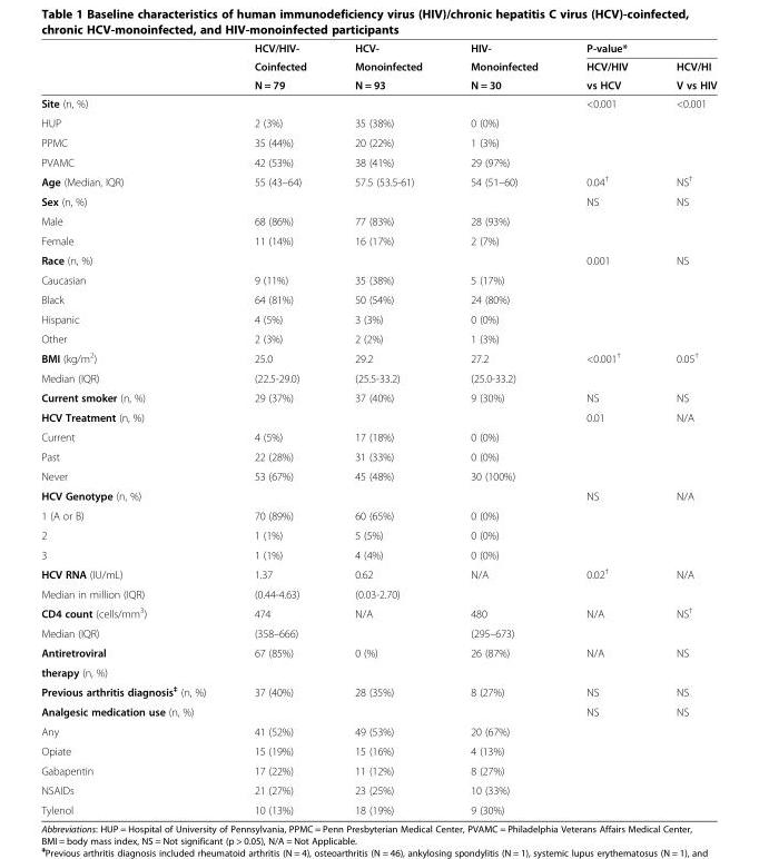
<table><thead><tr><td rowspan="3"></td><td rowspan="3">HCV/HIV- Coinfected N = 79</td><td rowspan="3">HCV- Monoinfected N = 93</td><td rowspan="3">HIV- Monoinfected N = 30</td><td colspan="2">P-value*</td></tr><tr><td rowspan="2">HCV/HIV vs HCV</td><td rowspan="2">HCV/HI V vs HIV</td></tr><tr></tr></thead><tbody><tr><td>Site (n, %)</td><td></td><td></td><td></td><td>&lt;0.001</td><td>&lt;0.001</td></tr><tr><td>HUP</td><td>2 (3%)</td><td>35 (38%)</td><td>0 (0%)</td><td></td><td></td></tr><tr><td>PPMC</td><td>35 (44%)</td><td>20 (22%)</td><td>1 (3%)</td><td></td><td></td></tr><tr><td>PVAMC</td><td>42 (53%)</td><td>38 (41%)</td><td>29 (97%)</td><td></td><td></td></tr><tr><td>Age (Median, IQR)</td><td>55 (43–64)</td><td>57.5 (53.5-61)</td><td>54 (51–60)</td><td>0.04<sup>†</sup></td><td>NS<sup>†</sup></td></tr><tr><td>Sex (n, %)</td><td></td><td></td><td></td><td>NS</td><td>NS</td></tr><tr><td>Male</td><td>68 (86%)</td><td>77 (83%)</td><td>28 (93%)</td><td></td><td></td></tr><tr><td>Female</td><td>11 (14%)</td><td>16 (17%)</td><td>2 (7%)</td><td></td><td></td></tr><tr><td>Race (n, %)</td><td></td><td></td><td></td><td>0.001</td><td>NS</td></tr><tr><td>Caucasian</td><td>9 (11%)</td><td>35 (38%)</td><td>5 (17%)</td><td></td><td></td></tr><tr><td>Black</td><td>64 (81%)</td><td>50 (54%)</td><td>24 (80%)</td><td></td><td></td></tr><tr><td>Hispanic</td><td>4 (5%)</td><td>3 (3%)</td><td>0 (0%)</td><td></td><td></td></tr><tr><td>Other</td><td>2 (3%)</td><td>2 (2%)</td><td>1 (3%)</td><td></td><td></td></tr><tr><td>BMI (kg/m<sup>2</sup>)</td><td>25.0</td><td>29.2</td><td>27.2</td><td>&lt;0.001<sup>†</sup></td><td>0.05<sup>†</sup></td></tr><tr><td>Median (IQR)</td><td>(22.5-29.0)</td><td>(25.5-33.2)</td><td>(25.0-33.2)</td><td></td><td></td></tr><tr><td>Current smoker (n, %)</td><td>29 (37%)</td><td>37 (40%)</td><td>9 (30%)</td><td>NS</td><td>NS</td></tr><tr><td>HCV Treatment (n, %)</td><td></td><td></td><td></td><td>0.01</td><td>N/A</td></tr><tr><td>Current</td><td>4 (5%)</td><td>17 (18%)</td><td>0 (0%)</td><td></td><td></td></tr><tr><td>Past</td><td>22 (28%)</td><td>31 (33%)</td><td>0 (0%)</td><td></td><td></td></tr><tr><td>Never</td><td>53 (67%)</td><td>45 (48%)</td><td>30 (100%)</td><td></td><td></td></tr><tr><td>HCV Genotype (n, %)</td><td></td><td></td><td></td><td>NS</td><td>N/A</td></tr><tr><td>1 (A or B)</td><td>70 (89%)</td><td>60 (65%)</td><td>0 (0%)</td><td></td><td></td></tr><tr><td>2</td><td>1 (1%)</td><td>5 (5%)</td><td>0 (0%)</td><td></td><td></td></tr><tr><td>3</td><td>1 (1%)</td><td>4 (4%)</td><td>0 (0%)</td><td></td><td></td></tr><tr><td>HCV RNA (IU/mL)</td><td>1.37</td><td>0.62</td><td>N/A</td><td>0.02<sup>†</sup></td><td>N/A</td></tr><tr><td>Median in million (IQR)</td><td>(0.44-4.63)</td><td>(0.03-2.70)</td><td></td><td></td><td></td></tr><tr><td>CD4 count (cells/mm<sup>3</sup>)</td><td>474</td><td>N/A</td><td>480</td><td>N/A</td><td>NS<sup>†</sup></td></tr><tr><td>Median (IQR)</td><td>(358–666)</td><td></td><td>(295–673)</td><td></td><td></td></tr><tr><td>Antiretroviral</td><td>67 (85%)</td><td>0 (%)</td><td>26 (87%)</td><td>N/A</td><td>NS</td></tr><tr><td colspan="6">therapy (n, %)</td></tr><tr><td>Previous arthritis diagnosis<sup>‡</sup> (n, %)</td><td>37 (40%)</td><td>28 (35%)</td><td>8 (27%)</td><td>NS</td><td>NS</td></tr><tr><td>Analgesic medication use (n, %)</td><td></td><td></td><td></td><td>NS</td><td>NS</td></tr><tr><td>Any</td><td>41 (52%)</td><td>49 (53%)</td><td>20 (67%)</td><td></td><td></td></tr><tr><td>Opiate</td><td>15 (19%)</td><td>15 (16%)</td><td>4 (13%)</td><td rowspan="4" colspan="2"></td></tr><tr><td>Gabapentin</td><td>17 (22%)</td><td>11 (12%)</td><td>8 (27%)</td></tr><tr><td>NSAIDs</td><td>21 (27%)</td><td>23 (25%)</td><td>10 (33%)</td></tr><tr><td>Tylenol</td><td>10 (13%)</td><td>18 (19%)</td><td>9 (30%)</td></tr></tbody></table>